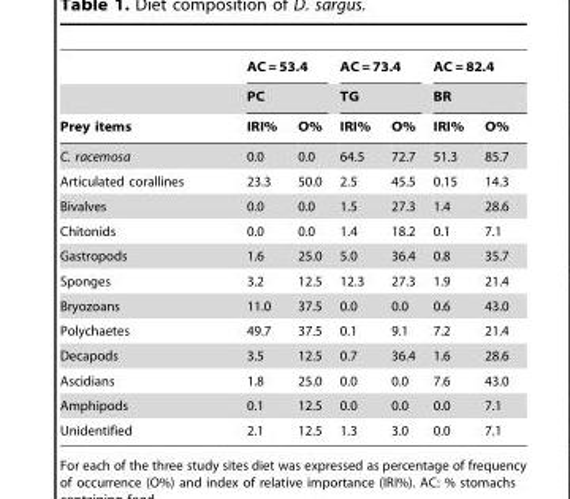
<table><thead><tr><td rowspan="3">Prey items</td><td rowspan="2" colspan="2">AC = 53.4 PC</td><td rowspan="2" colspan="2">AC = 73.4 TG</td><td rowspan="2" colspan="2">AC = 82.4 BR</td></tr><tr></tr><tr><td>IRI%</td><td>O%</td><td>IRI%</td><td>O%</td><td>IRI%</td><td>O%</td></tr></thead><tbody><tr><td>C. racemosa</td><td>0.0</td><td>0.0</td><td>64.5</td><td>72.7</td><td>51.3</td><td>85.7</td></tr><tr><td>Articulated corallines</td><td>23.3</td><td>50.0</td><td>2.5</td><td>45.5</td><td>0.15</td><td>14.3</td></tr><tr><td>Bivalves</td><td>0.0</td><td>0.0</td><td>1.5</td><td>27.3</td><td>1.4</td><td>28.6</td></tr><tr><td>Chitonids</td><td>0.0</td><td>0.0</td><td>1.4</td><td>18.2</td><td>0.1</td><td>7.1</td></tr><tr><td>Gastropods</td><td>1.6</td><td>25.0</td><td>5.0</td><td>36.4</td><td>0.8</td><td>35.7</td></tr><tr><td>Sponges</td><td>3.2</td><td>12.5</td><td>12.3</td><td>27.3</td><td>1.9</td><td>21.4</td></tr><tr><td>Bryozoans</td><td>11.0</td><td>37.5</td><td>0.0</td><td>0.0</td><td>0.6</td><td>43.0</td></tr><tr><td>Polychaetes</td><td>49.7</td><td>37.5</td><td>0.1</td><td>9.1</td><td>7.2</td><td>21.4</td></tr><tr><td>Decapods</td><td>3.5</td><td>12.5</td><td>0.7</td><td>36.4</td><td>1.6</td><td>28.6</td></tr><tr><td>Ascidians</td><td>1.8</td><td>25.0</td><td>0.0</td><td>0.0</td><td>7.6</td><td>43.0</td></tr><tr><td>Amphipods</td><td>0.1</td><td>12.5</td><td>0.0</td><td>0.0</td><td>0.0</td><td>7.1</td></tr><tr><td>Unidentified</td><td>2.1</td><td>12.5</td><td>1.3</td><td>3.0</td><td>0.0</td><td>7.1</td></tr></tbody></table>